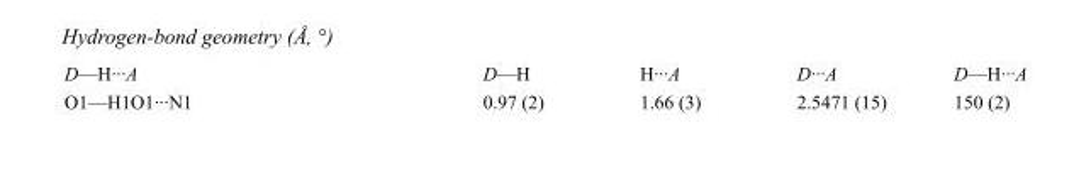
<table><tbody><tr><td>D—H···A</td><td>D—H</td><td>H···A</td><td>D···A</td><td>D—H···A</td></tr><tr><td>O1—H1O1···N1</td><td>0.97 (2)</td><td>1.66 (3)</td><td>2.5471 (15)</td><td>150 (2)</td></tr></tbody></table>